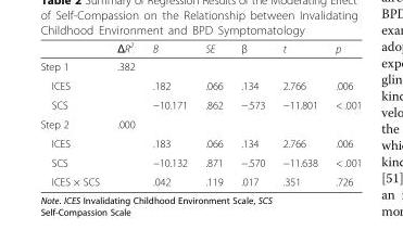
<table><thead><tr><td></td><td>ΔR<sup>2</sup></td><td>B</td><td>SE</td><td>β</td><td>t</td><td>p</td></tr></thead><tbody><tr><td>Step 1</td><td>.382</td><td></td><td></td><td></td><td></td><td></td></tr><tr><td>ICES</td><td></td><td>.182</td><td>.066</td><td>.134</td><td>2.766</td><td>.006</td></tr><tr><td>SCS</td><td></td><td>−10.171</td><td>.862</td><td>−.573</td><td>−11.801</td><td>&lt; .001</td></tr><tr><td>Step 2</td><td>.000</td><td></td><td></td><td></td><td></td><td></td></tr><tr><td>ICES</td><td></td><td>.183</td><td>.066</td><td>.134</td><td>2.766</td><td>.006</td></tr><tr><td>SCS</td><td></td><td>−10.132</td><td>.871</td><td>−.570</td><td>−11.638</td><td>&lt; .001</td></tr><tr><td>ICES × SCS</td><td></td><td>.042</td><td>.119</td><td>.017</td><td>.351</td><td>.726</td></tr></tbody></table>